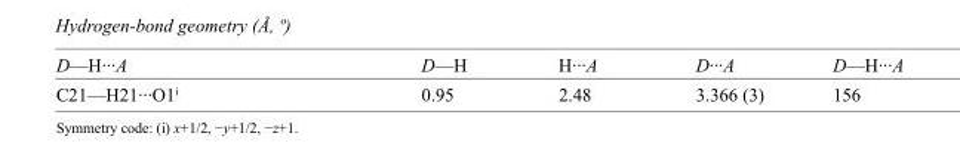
<table><tbody><tr><td>D—H···A</td><td>D—H</td><td>H···A</td><td>D···A</td><td>D—H···A</td></tr><tr><td>C21—H21···O1<sup>i</sup></td><td>0.95</td><td>2.48</td><td>3.366 (3)</td><td>156</td></tr></tbody></table>